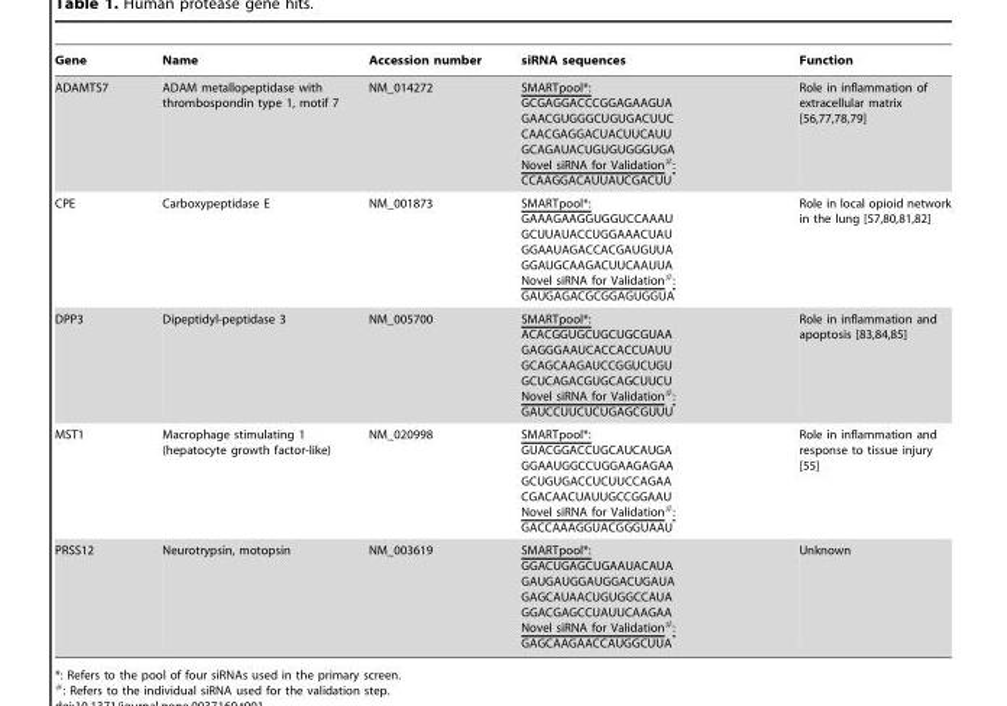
<table><thead><tr><td>Gene</td><td>Name</td><td>Accession number</td><td>siRNA sequences</td><td>Function</td></tr></thead><tbody><tr><td>ADAMTS7</td><td>ADAM metallopeptidase with thrombospondin type 1, motif 7</td><td>NM_014272</td><td>SMARTpool*: GCGAGGACCCGGAGAAGUA GAACGUGGGCUGUGACUUC CAACGAGGACUACUUCAUU GCAGAUACUGUGUGGGUGA Novel siRNA for Validation#: CCAAGGACAUUAUCGACUU</td><td>Role in inflammation of extracellular matrix [56,77,78,79]</td></tr><tr><td>CPE</td><td>Carboxypeptidase E</td><td>NM_001873</td><td>SMARTpool*: GAAAGAAGGUGGUCCAAAU GCUUAUACCUGGAAACUAU GGAAUAGACCACGAUGUUA GGAUGCAAGACUUCAAUUA Novel siRNA for Validation#: GAUGAGACGCGGAGUGGUA</td><td>Role in local opioid network in the lung [57,80,81,82]</td></tr><tr><td>DPP3</td><td>Dipeptidyl-peptidase 3</td><td>NM_005700</td><td>SMARTpool*: ACACGGUGCUGCUGCGUAA GAGGGAAUCACCACCUAUU GCAGCAAGAUCCGGUCUGU GCUCAGACGUGCAGCUUCU Novel siRNA for Validation#: GAUCCUUCUCUGAGCGUUU</td><td>Role in inflammation and apoptosis [83,84,85]</td></tr><tr><td>MST1</td><td>Macrophage stimulating 1 (hepatocyte growth factor-like)</td><td>NM_020998</td><td>SMARTpool*: GUACGGACCUGCAUCAUGA GGAAUGGCCUGGAAGAGAA GCUGUGACCUCUUCCAGAA CGACAACUAUUGCCGGAAU Novel siRNA for Validation#: GACCAAAGGUACGGGUAAU</td><td>Role in inflammation and response to tissue injury [55]</td></tr><tr><td>PRSS12</td><td>Neurotrypsin, motopsin</td><td>NM_003619</td><td>SMARTpool*: GGACUGAGCUGAAUACAUA GAUGAUGGAUGGACUGAUA GAGCAUAACUGUGGCCAUA GGACGAGCCUAUUCAAGAA Novel siRNA for Validation#: GAGCAAGAACCAUGGCUUA</td><td>Unknown</td></tr></tbody></table>